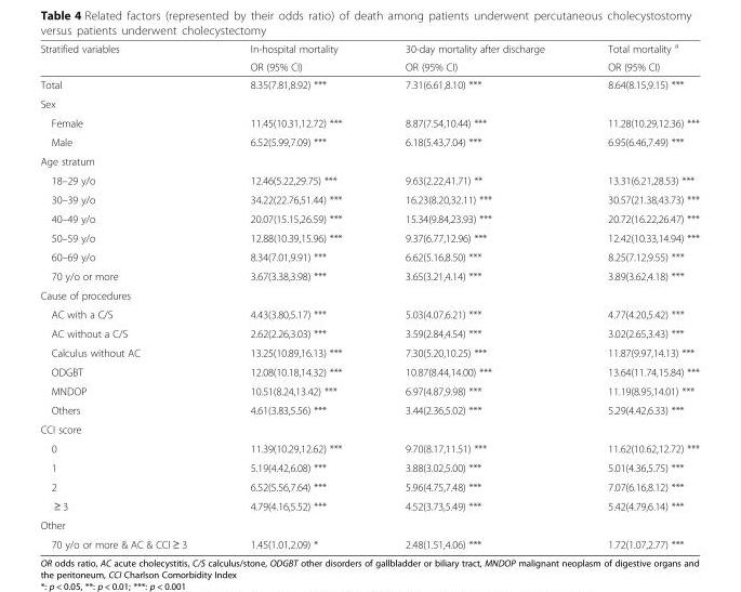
<table><thead><tr><td rowspan="2">Stratified variables</td><td rowspan="2">In-hospital mortality OR (95% CI)</td><td rowspan="2">30-day mortality after discharge OR (95% CI)</td><td rowspan="2">Total mortality <sup>a</sup> OR (95% CI)</td></tr><tr></tr></thead><tbody><tr><td>Total</td><td>8.35(7.81,8.92) ***</td><td>7.31(6.61,8.10) ***</td><td>8.64(8.15,9.15) ***</td></tr><tr><td colspan="4">Sex</td></tr><tr><td>Female</td><td>11.45(10.31,12.72) ***</td><td>8.87(7.54,10.44) ***</td><td>11.28(10.29,12.36) ***</td></tr><tr><td>Male</td><td>6.52(5.99,7.09) ***</td><td>6.18(5.43,7.04) ***</td><td>6.95(6.46,7.49) ***</td></tr><tr><td colspan="4">Age stratum</td></tr><tr><td>18–29 y/o</td><td>12.46(5.22,29.75) ***</td><td>9.63(2.22,41.71) **</td><td>13.31(6.21,28.53) ***</td></tr><tr><td>30–39 y/o</td><td>34.22(22.76,51.44) ***</td><td>16.23(8.20,32.11) ***</td><td>30.57(21.38,43.73) ***</td></tr><tr><td>40–49 y/o</td><td>20.07(15.15,26.59) ***</td><td>15.34(9.84,23.93) ***</td><td>20.72(16.22,26.47) ***</td></tr><tr><td>50–59 y/o</td><td>12.88(10.39,15.96) ***</td><td>9.37(6.77,12.96) ***</td><td>12.42(10.33,14.94) ***</td></tr><tr><td>60–69 y/o</td><td>8.34(7.01,9.91) ***</td><td>6.62(5.16,8.50) ***</td><td>8.25(7.12,9.55) ***</td></tr><tr><td>70 y/o or more</td><td>3.67(3.38,3.98) ***</td><td>3.65(3.21,4.14) ***</td><td>3.89(3.62,4.18) ***</td></tr><tr><td colspan="4">Cause of procedures</td></tr><tr><td>AC with a C/S</td><td>4.43(3.80,5.17) ***</td><td>5.03(4.07,6.21) ***</td><td>4.77(4.20,5.42) ***</td></tr><tr><td>AC without a C/S</td><td>2.62(2.26,3.03) ***</td><td>3.59(2.84,4.54) ***</td><td>3.02(2.65,3.43) ***</td></tr><tr><td>Calculus without AC</td><td>13.25(10.89,16.13) ***</td><td>7.30(5.20,10.25) ***</td><td>11.87(9.97,14.13) ***</td></tr><tr><td>ODGBT</td><td>12.08(10.18,14.32) ***</td><td>10.87(8.44,14.00) ***</td><td>13.64(11.74,15.84) ***</td></tr><tr><td>MNDOP</td><td>10.51(8.24,13.42) ***</td><td>6.97(4.87,9.98) ***</td><td>11.19(8.95,14.01) ***</td></tr><tr><td>Others</td><td>4.61(3.83,5.56) ***</td><td>3.44(2.36,5.02) ***</td><td>5.29(4.42,6.33) ***</td></tr><tr><td colspan="4">CCI score</td></tr><tr><td>0</td><td>11.39(10.29,12.62) ***</td><td>9.70(8.17,11.51) ***</td><td>11.62(10.62,12.72) ***</td></tr><tr><td>1</td><td>5.19(4.42,6.08) ***</td><td>3.88(3.02,5.00) ***</td><td>5.01(4.36,5.75) ***</td></tr><tr><td>2</td><td>6.52(5.56,7.64) ***</td><td>5.96(4.75,7.48) ***</td><td>7.07(6.16,8.12) ***</td></tr><tr><td>≥ 3</td><td>4.79(4.16,5.52) ***</td><td>4.52(3.73,5.49) ***</td><td>5.42(4.79,6.14) ***</td></tr><tr><td colspan="4">Other</td></tr><tr><td>70 y/o or more &amp; AC &amp; CCI ≥ 3</td><td>1.45(1.01,2.09) *</td><td>2.48(1.51,4.06) ***</td><td>1.72(1.07,2.77) ***</td></tr></tbody></table>